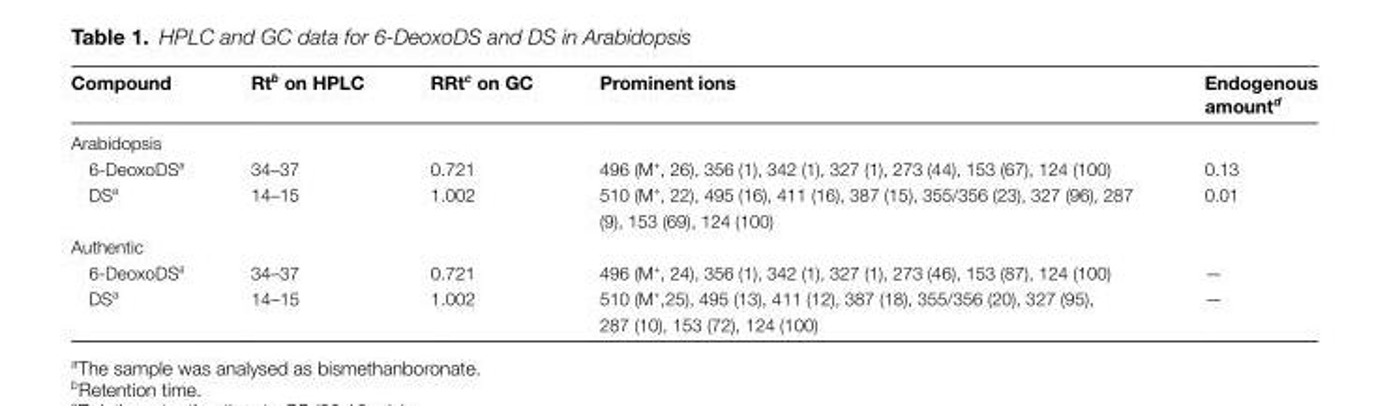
<table><thead><tr><td>Compound</td><td>Rt<sup>b</sup> on HPLC</td><td>RRt<sup>c</sup> on GC</td><td>Prominent ions</td><td>Endogenous amount<sup>d</sup></td></tr></thead><tbody><tr><td colspan="5">Arabidopsis</td></tr><tr><td>6-DeoxoDS<sup>a</sup></td><td>34–37</td><td>0.721</td><td>496 (M<sup>+</sup>, 26), 356 (1), 342 (1), 327 (1), 273 (44), 153 (67), 124 (100)</td><td>0.13</td></tr><tr><td>DS<sup>a</sup></td><td>14–15</td><td>1.002</td><td>510 (M<sup>+</sup>, 22), 495 (16), 411 (16), 387 (15), 355/356 (23), 327 (96), 287 (9), 153 (69), 124 (100)</td><td>0.01</td></tr><tr><td colspan="5">Authentic</td></tr><tr><td>6-DeoxoDS<sup>a</sup></td><td>34–37</td><td>0.721</td><td>496 (M<sup>+</sup>, 24), 356 (1), 342 (1), 327 (1), 273 (46), 153 (87), 124 (100)</td><td>—</td></tr><tr><td>DS<sup>a</sup></td><td>14–15</td><td>1.002</td><td>510 (M<sup>+</sup>,25), 495 (13), 411 (12), 387 (18), 355/356 (20), 327 (95), 287 (10), 153 (72), 124 (100)</td><td>—</td></tr></tbody></table>